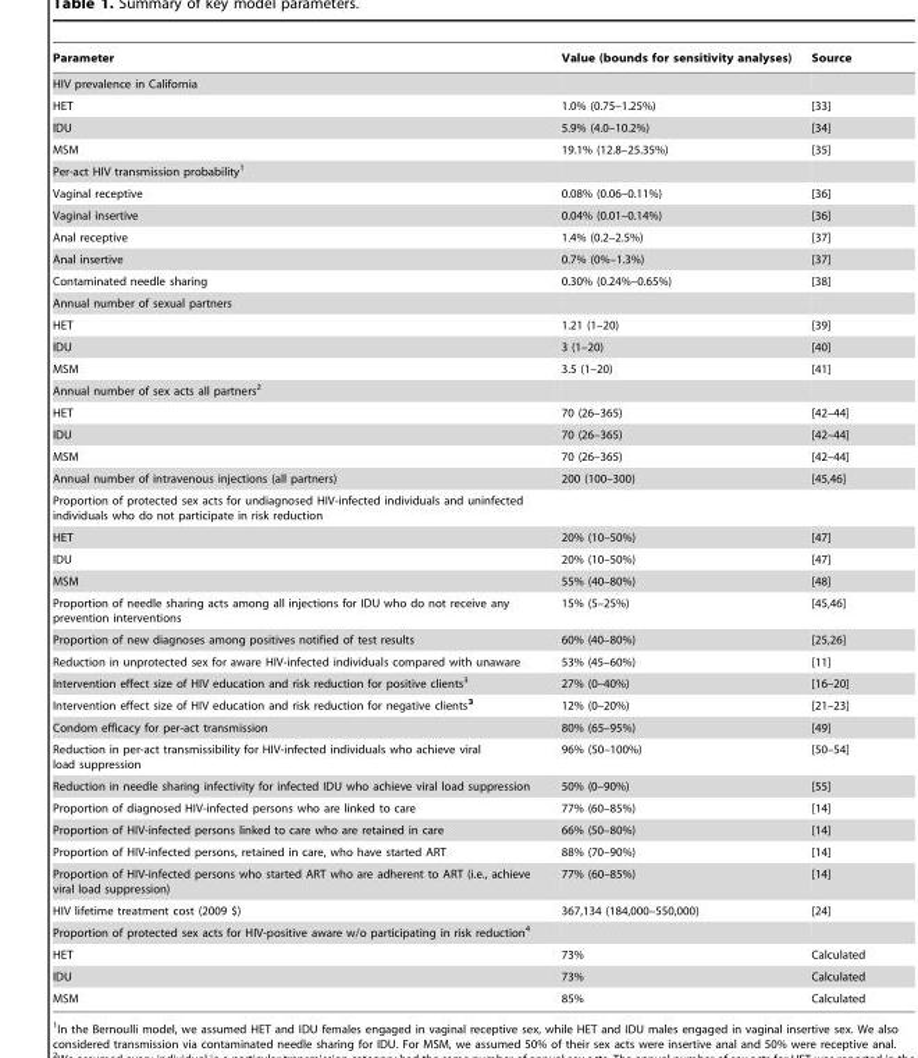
<table><thead><tr><td>Parameter</td><td>Value (bounds for sensitivity analyses)</td><td>Source</td></tr></thead><tbody><tr><td colspan="3">HIV prevalence in California</td></tr><tr><td>HET</td><td>1.0% (0.75–1.25%)</td><td>[33]</td></tr><tr><td>IDU</td><td>5.9% (4.0–10.2%)</td><td>[34]</td></tr><tr><td>MSM</td><td>19.1% (12.8–25.35%)</td><td>[35]</td></tr><tr><td colspan="3">Per-act HIV transmission probability<sup>1</sup></td></tr><tr><td>Vaginal receptive</td><td>0.08% (0.06–0.11%)</td><td>[36]</td></tr><tr><td>Vaginal insertive</td><td>0.04% (0.01–0.14%)</td><td>[36]</td></tr><tr><td>Anal receptive</td><td>1.4% (0.2–2.5%)</td><td>[37]</td></tr><tr><td>Anal insertive</td><td>0.7% (0%–1.3%)</td><td>[37]</td></tr><tr><td>Contaminated needle sharing</td><td>0.30% (0.24%–0.65%)</td><td>[38]</td></tr><tr><td colspan="3">Annual number of sexual partners</td></tr><tr><td>HET</td><td>1.21 (1–20)</td><td>[39]</td></tr><tr><td>IDU</td><td>3 (1–20)</td><td>[40]</td></tr><tr><td>MSM</td><td>3.5 (1–20)</td><td>[41]</td></tr><tr><td colspan="3">Annual number of sex acts all partners<sup>2</sup></td></tr><tr><td>HET</td><td>70 (26–365)</td><td>[42–44]</td></tr><tr><td>IDU</td><td>70 (26–365)</td><td>[42–44]</td></tr><tr><td>MSM</td><td>70 (26–365)</td><td>[42–44]</td></tr><tr><td>Annual number of intravenous injections (all partners)</td><td>200 (100–300)</td><td>[45,46]</td></tr><tr><td colspan="3">Proportion of protected sex acts for undiagnosed HIV-infected individuals and uninfected individuals who do not participate in risk reduction</td></tr><tr><td>HET</td><td>20% (10–50%)</td><td>[47]</td></tr><tr><td>IDU</td><td>20% (10–50%)</td><td>[47]</td></tr><tr><td>MSM</td><td>55% (40–80%)</td><td>[48]</td></tr><tr><td>Proportion of needle sharing acts among all injections for IDU who do not receive any prevention interventions</td><td>15% (5–25%)</td><td>[45,46]</td></tr><tr><td>Proportion of new diagnoses among positives notified of test results</td><td>60% (40–80%)</td><td>[25,26]</td></tr><tr><td>Reduction in unprotected sex for aware HIV-infected individuals compared with unaware</td><td>53% (45–60%)</td><td>[11]</td></tr><tr><td>Intervention effect size of HIV education and risk reduction for positive clients<sup>3</sup></td><td>27% (0–40%)</td><td>[16–20]</td></tr><tr><td>Intervention effect size of HIV education and risk reduction for negative clients<sup>3</sup></td><td>12% (0–20%)</td><td>[21–23]</td></tr><tr><td>Condom efficacy for per-act transmission</td><td>80% (65–95%)</td><td>[49]</td></tr><tr><td>Reduction in per-act transmissibility for HIV-infected individuals who achieve viral load suppression</td><td>96% (50–100%)</td><td>[50–54]</td></tr><tr><td>Reduction in needle sharing infectivity for infected IDU who achieve viral load suppression</td><td>50% (0–90%)</td><td>[55]</td></tr><tr><td>Proportion of diagnosed HIV-infected persons who are linked to care</td><td>77% (60–85%)</td><td>[14]</td></tr><tr><td>Proportion of HIV-infected persons linked to care who are retained in care</td><td>66% (50–80%)</td><td>[14]</td></tr><tr><td>Proportion of HIV-infected persons, retained in care, who have started ART</td><td>88% (70–90%)</td><td>[14]</td></tr><tr><td>Proportion of HIV-infected persons who started ART who are adherent to ART (i.e., achieve viral load suppression)</td><td>77% (60–85%)</td><td>[14]</td></tr><tr><td>HIV lifetime treatment cost (2009 $)</td><td>367,134 (184,000–550,000)</td><td>[24]</td></tr><tr><td colspan="3">Proportion of protected sex acts for HIV-positive aware w/o participating in risk reduction<sup>4</sup></td></tr><tr><td>HET</td><td>73%</td><td>Calculated</td></tr><tr><td>IDU</td><td>73%</td><td>Calculated</td></tr><tr><td>MSM</td><td>85%</td><td>Calculated</td></tr></tbody></table>